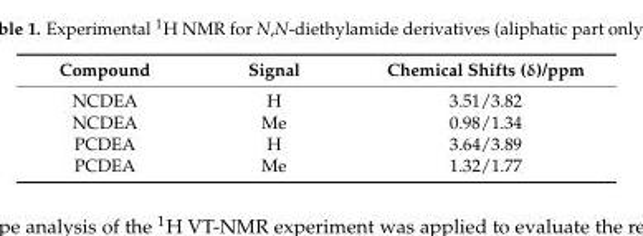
<table><thead><tr><td>Compound</td><td>Signal</td><td>Chemical Shifts (δ)/ppm</td></tr></thead><tbody><tr><td>NCDEA</td><td>H</td><td>3.51/3.82</td></tr><tr><td>NCDEA</td><td>Me</td><td>0.98/1.34</td></tr><tr><td>PCDEA</td><td>H</td><td>3.64/3.89</td></tr><tr><td>PCDEA</td><td>Me</td><td>1.32/1.77</td></tr></tbody></table>